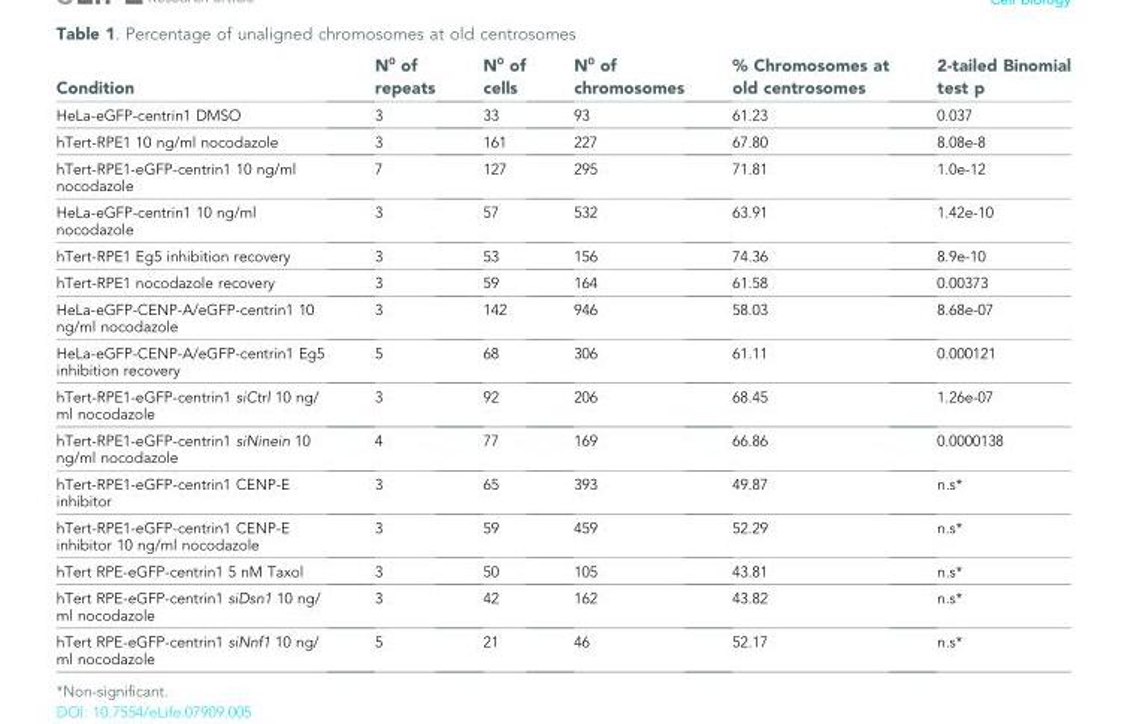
<table><thead><tr><td>Condition</td><td>N<sup>0</sup> of repeats</td><td>N<sup>0</sup> of cells</td><td>N<sup>0</sup> of chromosomes</td><td>% Chromosomes at old centrosomes</td><td>2-tailed Binomial test p</td></tr></thead><tbody><tr><td>HeLa-eGFP-centrin1 DMSO</td><td>3</td><td>33</td><td>93</td><td>61.23</td><td>0.037</td></tr><tr><td>hTert-RPE1 10 ng/ml nocodazole</td><td>3</td><td>161</td><td>227</td><td>67.80</td><td>8.08e-8</td></tr><tr><td>hTert-RPE1-eGFP-centrin1 10 ng/ml nocodazole</td><td>7</td><td>127</td><td>295</td><td>71.81</td><td>1.0e-12</td></tr><tr><td>HeLa-eGFP-centrin1 10 ng/ml nocodazole</td><td>3</td><td>57</td><td>532</td><td>63.91</td><td>1.42e-10</td></tr><tr><td>hTert-RPE1 Eg5 inhibition recovery</td><td>3</td><td>53</td><td>156</td><td>74.36</td><td>8.9e-10</td></tr><tr><td>hTert-RPE1 nocodazole recovery</td><td>3</td><td>59</td><td>164</td><td>61.58</td><td>0.00373</td></tr><tr><td>HeLa-eGFP-CENP-A/eGFP-centrin1 10 ng/ml nocodazole</td><td>3</td><td>142</td><td>946</td><td>58.03</td><td>8.68e-07</td></tr><tr><td>HeLa-eGFP-CENP-A/eGFP-centrin1 Eg5 inhibition recovery</td><td>5</td><td>68</td><td>306</td><td>61.11</td><td>0.000121</td></tr><tr><td>hTert-RPE1-eGFP-centrin1 siCtrl 10 ng/ ml nocodazole</td><td>3</td><td>92</td><td>206</td><td>68.45</td><td>1.26e-07</td></tr><tr><td>hTert-RPE1-eGFP-centrin1 siNinein 10 ng/ml nocodazole</td><td>4</td><td>77</td><td>169</td><td>66.86</td><td>0.0000138</td></tr><tr><td>hTert-RPE1-eGFP-centrin1 CENP-E inhibitor</td><td>3</td><td>65</td><td>393</td><td>49.87</td><td>n.s*</td></tr><tr><td>hTert-RPE1-eGFP-centrin1 CENP-E inhibitor 10 ng/ml nocodazole</td><td>3</td><td>59</td><td>459</td><td>52.29</td><td>n.s*</td></tr><tr><td>hTert RPE-eGFP-centrin1 5 nM Taxol</td><td>3</td><td>50</td><td>105</td><td>43.81</td><td>n.s*</td></tr><tr><td>hTert RPE-eGFP-centrin1 siDsn1 10 ng/ ml nocodazole</td><td>3</td><td>42</td><td>162</td><td>43.82</td><td>n.s*</td></tr><tr><td>hTert RPE-eGFP-centrin1 siNnf1 10 ng/ ml nocodazole</td><td>5</td><td>21</td><td>46</td><td>52.17</td><td>n.s*</td></tr></tbody></table>